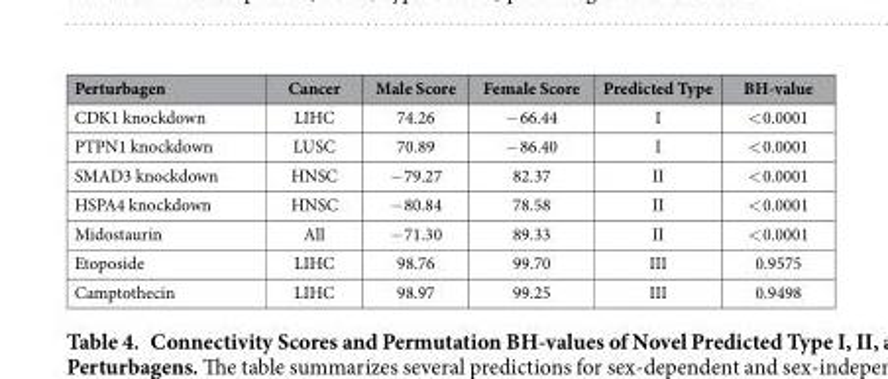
<table><thead><tr><td>Perturbagen</td><td>Cancer</td><td>Male Score</td><td>Female Score</td><td>Predicted Type</td><td>BH-value</td></tr></thead><tbody><tr><td>CDK1 knockdown</td><td>LIHC</td><td>74.26</td><td>− 66.44</td><td>I</td><td>&lt; 0.0001</td></tr><tr><td>PTPN1 knockdown</td><td>LUSC</td><td>70.89</td><td>− 86.40</td><td>I</td><td>&lt; 0.0001</td></tr><tr><td>SMAD3 knockdown</td><td>HNSC</td><td>− 79.27</td><td>82.37</td><td>II</td><td>&lt; 0.0001</td></tr><tr><td>HSPA4 knockdown</td><td>HNSC</td><td>− 80.84</td><td>78.58</td><td>II</td><td>&lt; 0.0001</td></tr><tr><td>Midostaurin</td><td>All</td><td>− 71.30</td><td>89.33</td><td>II</td><td>&lt; 0.0001</td></tr><tr><td>Etoposide</td><td>LIHC</td><td>98.76</td><td>99.70</td><td>III</td><td>0.9575</td></tr><tr><td>Camptothecin</td><td>LIHC</td><td>98.97</td><td>99.25</td><td>III</td><td>0.9498</td></tr></tbody></table>